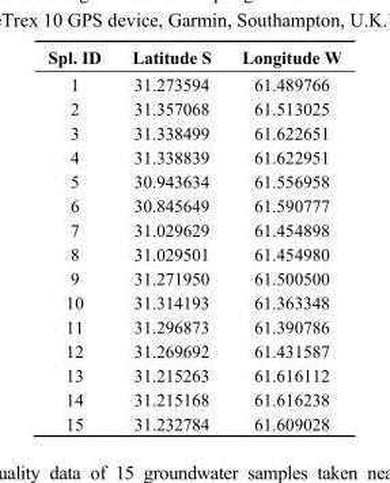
<table><thead><tr><td>Spl. ID</td><td>Latitude S</td><td>Longitude W</td></tr></thead><tbody><tr><td>1</td><td>31.273594</td><td>61.489766</td></tr><tr><td>2</td><td>31.357068</td><td>61.513025</td></tr><tr><td>3</td><td>31.338499</td><td>61.622651</td></tr><tr><td>4</td><td>31.338839</td><td>61.622951</td></tr><tr><td>5</td><td>30.943634</td><td>61.556958</td></tr><tr><td>6</td><td>30.845649</td><td>61.590777</td></tr><tr><td>7</td><td>31.029629</td><td>61.454898</td></tr><tr><td>8</td><td>31.029501</td><td>61.454980</td></tr><tr><td>9</td><td>31.271950</td><td>61.500500</td></tr><tr><td>10</td><td>31.314193</td><td>61.363348</td></tr><tr><td>11</td><td>31.296873</td><td>61.390786</td></tr><tr><td>12</td><td>31.269692</td><td>61.431587</td></tr><tr><td>13</td><td>31.215263</td><td>61.616112</td></tr><tr><td>14</td><td>31.215168</td><td>61.616238</td></tr><tr><td>15</td><td>31.232784</td><td>61.609028</td></tr></tbody></table>